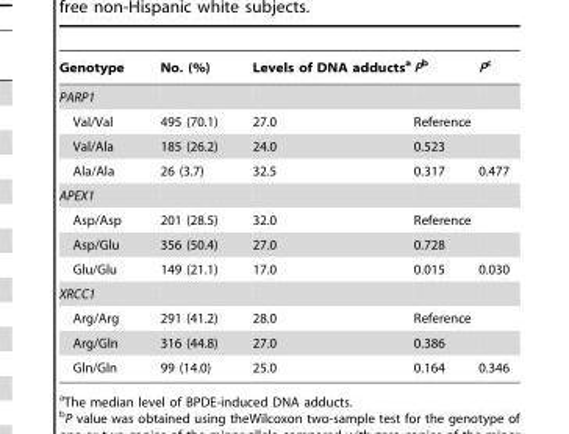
<table><thead><tr><td>Genotype</td><td>No. (%)</td><td>Levels of DNA adducts<sup>a</sup></td><td>Pb</td><td>Pc</td></tr></thead><tbody><tr><td colspan="5">PARP1</td></tr><tr><td>Val/Val</td><td>495 (70.1)</td><td>27.0</td><td>Reference</td><td></td></tr><tr><td>Val/Ala</td><td>185 (26.2)</td><td>24.0</td><td>0.523</td><td></td></tr><tr><td>Ala/Ala</td><td>26 (3.7)</td><td>32.5</td><td>0.317</td><td>0.477</td></tr><tr><td colspan="5">APEX1</td></tr><tr><td>Asp/Asp</td><td>201 (28.5)</td><td>32.0</td><td>Reference</td><td></td></tr><tr><td>Asp/Glu</td><td>356 (50.4)</td><td>27.0</td><td>0.728</td><td></td></tr><tr><td>Glu/Glu</td><td>149 (21.1)</td><td>17.0</td><td>0.015</td><td>0.030</td></tr><tr><td colspan="5">XRCC1</td></tr><tr><td>Arg/Arg</td><td>291 (41.2)</td><td>28.0</td><td>Reference</td><td></td></tr><tr><td>Arg/Gln</td><td>316 (44.8)</td><td>27.0</td><td>0.386</td><td></td></tr><tr><td>Gln/Gln</td><td>99 (14.0)</td><td>25.0</td><td>0.164</td><td>0.346</td></tr></tbody></table>